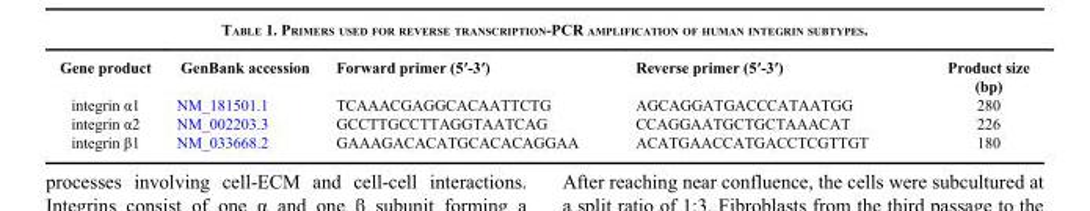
<table><thead><tr><td>Gene product</td><td>GenBank accession</td><td>Forward primer (5′-3′)</td><td>Reverse primer (5′-3′)</td><td>Product size (bp)</td></tr></thead><tbody><tr><td>integrin α1</td><td>NM_181501.1</td><td>TCAAACGAGGCACAATTCTG</td><td>AGCAGGATGACCCATAATGG</td><td>280</td></tr><tr><td>integrin α2</td><td>NM_002203.3</td><td>GCCTTGCCTTAGGTAATCAG</td><td>CCAGGAATGCTGCTAAACAT</td><td>226</td></tr><tr><td>integrin β1</td><td>NM_033668.2</td><td>GAAAGACACATGCACACAGGAA</td><td>ACATGAACCATGACCTCGTTGT</td><td>180</td></tr></tbody></table>